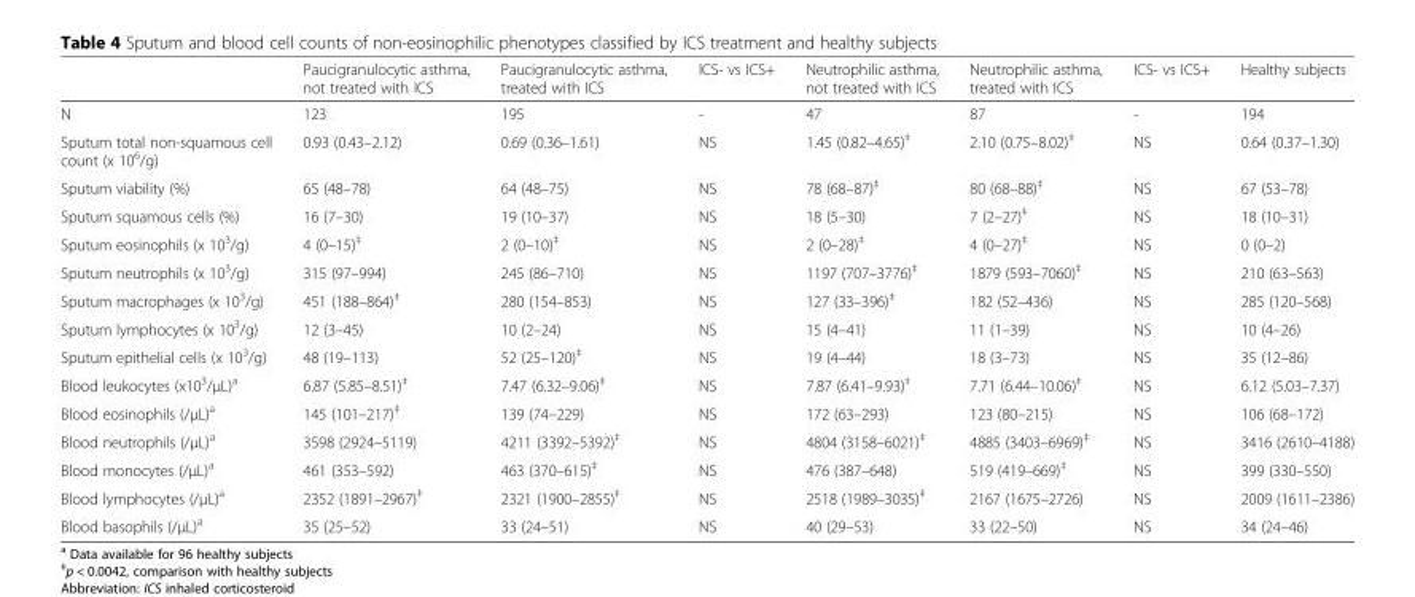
<table><thead><tr><td></td><td>Paucigranulocytic asthma, not treated with ICS</td><td>Paucigranulocytic asthma, treated with ICS</td><td>ICS- vs ICS+</td><td>Neutrophilic asthma, not treated with ICS</td><td>Neutrophilic asthma, treated with ICS</td><td>ICS- vs ICS+</td><td>Healthy subjects</td></tr></thead><tbody><tr><td>N</td><td>123</td><td>195</td><td>-</td><td>47</td><td>87</td><td>-</td><td>194</td></tr><tr><td>Sputum total non-squamous cell count (x 10<sup>6</sup>/g)</td><td>0.93 (0.43–2.12)</td><td>0.69 (0.36–1.61)</td><td>NS</td><td>1.45 (0.82–4.65)<sup>‡</sup></td><td>2.10 (0.75–8.02)<sup>‡</sup></td><td>NS</td><td>0.64 (0.37–1.30)</td></tr><tr><td>Sputum viability (%)</td><td>65 (48–78)</td><td>64 (48–75)</td><td>NS</td><td>78 (68–87)<sup>‡</sup></td><td>80 (68–88)<sup>‡</sup></td><td>NS</td><td>67 (53–78)</td></tr><tr><td>Sputum squamous cells (%)</td><td>16 (7–30)</td><td>19 (10–37)</td><td>NS</td><td>18 (5–30)</td><td>7 (2–27)<sup>‡</sup></td><td>NS</td><td>18 (10–31)</td></tr><tr><td>Sputum eosinophils (x 10<sup>3</sup>/g)</td><td>4 (0–15)<sup>‡</sup></td><td>2 (0–10)<sup>‡</sup></td><td>NS</td><td>2 (0–28)<sup>‡</sup></td><td>4 (0–27)<sup>‡</sup></td><td>NS</td><td>0 (0–2)</td></tr><tr><td>Sputum neutrophils (x 10<sup>3</sup>/g)</td><td>315 (97–994)</td><td>245 (86–710)</td><td>NS</td><td>1197 (707–3776)<sup>‡</sup></td><td>1879 (593–7060)<sup>‡</sup></td><td>NS</td><td>210 (63–563)</td></tr><tr><td>Sputum macrophages (x 10<sup>3</sup>/g)</td><td>451 (188–864)<sup>‡</sup></td><td>280 (154–853)</td><td>NS</td><td>127 (33–396)<sup>‡</sup></td><td>182 (52–436)</td><td>NS</td><td>285 (120–568)</td></tr><tr><td>Sputum lymphocytes (x 10<sup>3</sup>/g)</td><td>12 (3–45)</td><td>10 (2–24)</td><td>NS</td><td>15 (4–41)</td><td>11 (1–39)</td><td>NS</td><td>10 (4–26)</td></tr><tr><td>Sputum epithelial cells (x 10<sup>3</sup>/g)</td><td>48 (19–113)</td><td>52 (25–120)<sup>‡</sup></td><td>NS</td><td>19 (4–44)</td><td>18 (3–73)</td><td>NS</td><td>35 (12–86)</td></tr><tr><td>Blood leukocytes (x10<sup>3</sup>/μL)<sup>a</sup></td><td>6.87 (5.85–8.51)<sup>‡</sup></td><td>7.47 (6.32–9.06)<sup>‡</sup></td><td>NS</td><td>7.87 (6.41–9.93)<sup>‡</sup></td><td>7.71 (6.44–10.06)<sup>‡</sup></td><td>NS</td><td>6.12 (5.03–7.37)</td></tr><tr><td>Blood eosinophils (/μL)<sup>a</sup></td><td>145 (101–217)<sup>‡</sup></td><td>139 (74–229)</td><td>NS</td><td>172 (63–293)</td><td>123 (80–215)</td><td>NS</td><td>106 (68–172)</td></tr><tr><td>Blood neutrophils (/μL)<sup>a</sup></td><td>3598 (2924–5119)</td><td>4211 (3392–5392)<sup>‡</sup></td><td>NS</td><td>4804 (3158–6021)<sup>‡</sup></td><td>4885 (3403–6969)<sup>‡</sup></td><td>NS</td><td>3416 (2610–4188)</td></tr><tr><td>Blood monocytes (/μL)<sup>a</sup></td><td>461 (353–592)</td><td>463 (370–615)<sup>‡</sup></td><td>NS</td><td>476 (387–648)</td><td>519 (419–669)<sup>‡</sup></td><td>NS</td><td>399 (330–550)</td></tr><tr><td>Blood lymphocytes (/μL)<sup>a</sup></td><td>2352 (1891–2967)<sup>‡</sup></td><td>2321 (1900–2855)<sup>‡</sup></td><td>NS</td><td>2518 (1989–3035)<sup>‡</sup></td><td>2167 (1675–2726)</td><td>NS</td><td>2009 (1611–2386)</td></tr><tr><td>Blood basophils (/μL)<sup>a</sup></td><td>35 (25–52)</td><td>33 (24–51)</td><td>NS</td><td>40 (29–53)</td><td>33 (22–50)</td><td>NS</td><td>34 (24–46)</td></tr></tbody></table>